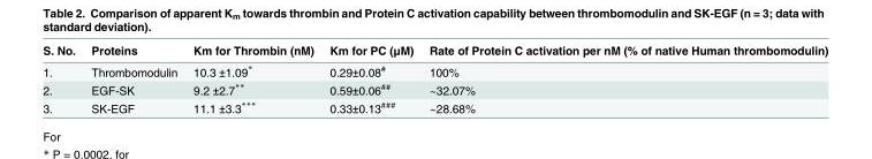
<table><thead><tr><td>S. No.</td><td>Proteins</td><td>Km for Thrombin (nM)</td><td>Km for PC (μM)</td><td>Rate of Protein C activation per nM (% of native Human thrombomodulin)</td></tr></thead><tbody><tr><td>1.</td><td>Thrombomodulin</td><td>10.3 ±1.09*</td><td>0.29±0.08<sup>#</sup></td><td>100%</td></tr><tr><td>2.</td><td>EGF-SK</td><td>9.2 ±2.7**</td><td>0.59±0.06<sup>##</sup></td><td>~32.07%</td></tr><tr><td>3.</td><td>SK-EGF</td><td>11.1 ±3.3***</td><td>0.33±0.13<sup>###</sup></td><td>~28.68%</td></tr></tbody></table>